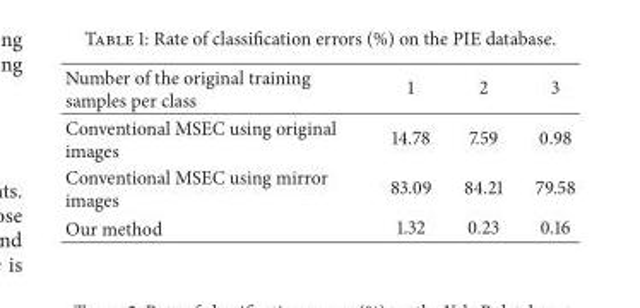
<table><thead><tr><td>Number of the original training samples per class</td><td>1</td><td>2</td><td>3</td></tr></thead><tbody><tr><td>Conventional MSEC using original images</td><td>14.78</td><td>7.59</td><td>0.98</td></tr><tr><td>Conventional MSEC using mirror images</td><td>83.09</td><td>84.21</td><td>79.58</td></tr><tr><td>Our method</td><td>1.32</td><td>0.23</td><td>0.16</td></tr></tbody></table>